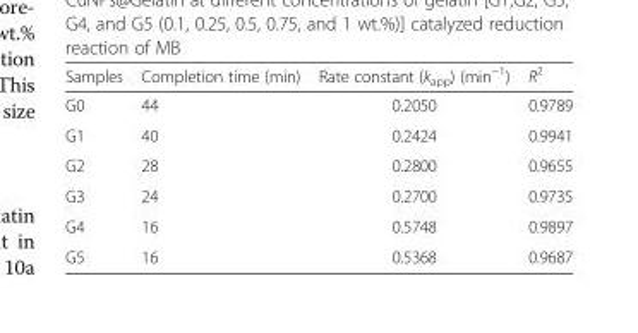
<table><thead><tr><td>Samples</td><td>Completion time (min)</td><td>Rate constant (k<sub>app</sub>) (min<sup>−1</sup>)</td><td>R<sup>2</sup></td></tr></thead><tbody><tr><td>G0</td><td>44</td><td>0.2050</td><td>0.9789</td></tr><tr><td>G1</td><td>40</td><td>0.2424</td><td>0.9941</td></tr><tr><td>G2</td><td>28</td><td>0.2800</td><td>0.9655</td></tr><tr><td>G3</td><td>24</td><td>0.2700</td><td>0.9735</td></tr><tr><td>G4</td><td>16</td><td>0.5748</td><td>0.9897</td></tr><tr><td>G5</td><td>16</td><td>0.5368</td><td>0.9687</td></tr></tbody></table>